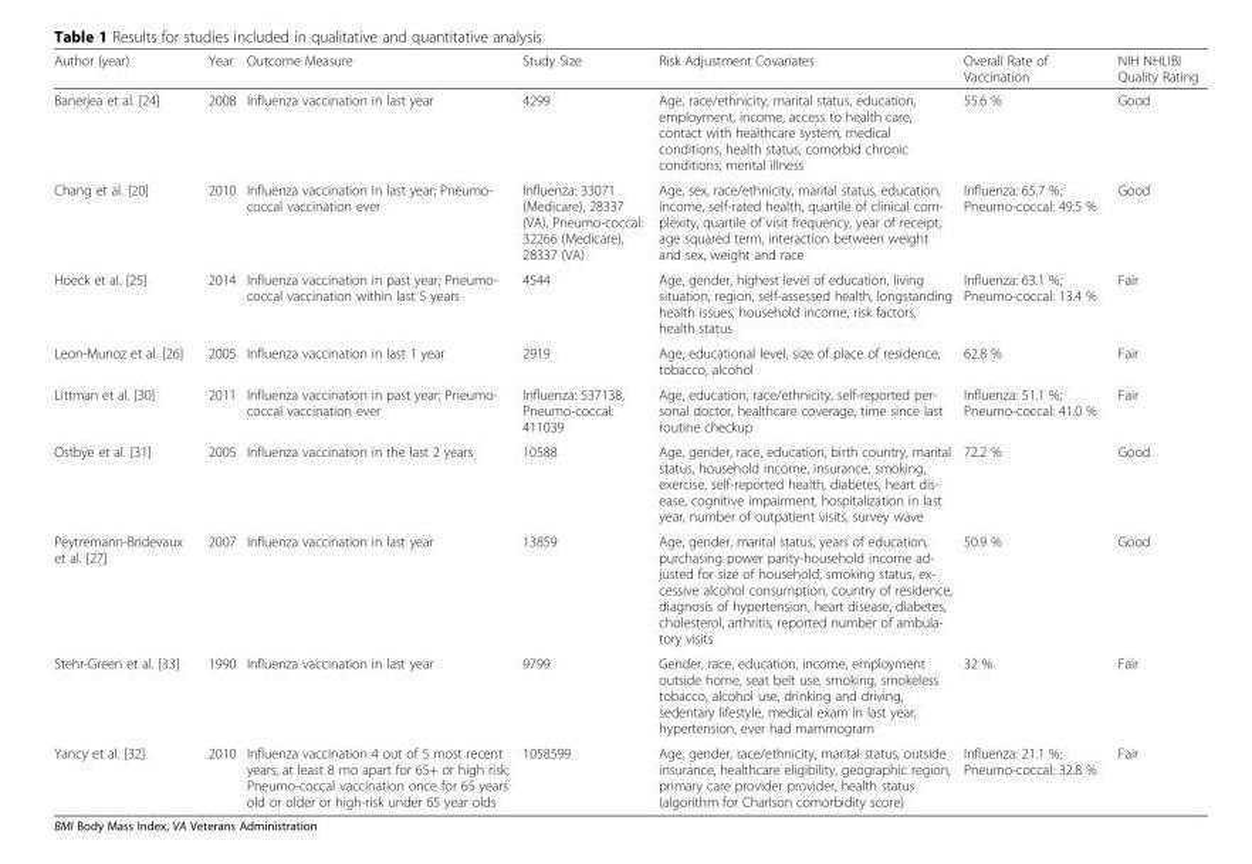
<table><thead><tr><td>Author (year)</td><td>Year</td><td>Outcome Measure</td><td>Study Size</td><td>Risk Adjustment Covariates</td><td>Overall Rate of Vaccination</td><td>NIH NHLIBI Quality Rating</td></tr></thead><tbody><tr><td>Banerjea et al. [24]</td><td>2008</td><td>Influenza vaccination in last year</td><td>4299</td><td>Age, race/ethnicity, marital status, education, employment, income, access to health care, contact with healthcare system, medical conditions, health status, comorbid chronic conditions, mental illness</td><td>55.6 %</td><td>Good</td></tr><tr><td>Chang et al. [20]</td><td>2010</td><td>Influenza vaccination in last year; Pneumo- coccal vaccination ever</td><td>Influenza: 33071 (Medicare), 28337 (VA), Pneumo-coccal: 32266 (Medicare), 28337 (VA)</td><td>Age, sex, race/ethnicity, marital status, education, income, self-rated health, quartile of clinical com- plexity, quartile of visit frequency, year of receipt, age squared term, interaction between weight and sex, weight and race</td><td>Influenza: 65.7 %; Pneumo-coccal: 49.5 %</td><td>Good</td></tr><tr><td>Hoeck et al. [25]</td><td>2014</td><td>Influenza vaccination in past year; Pneumo- coccal vaccination within last 5 years</td><td>4544</td><td>Age, gender, highest level of education, living situation, region, self-assessed health, longstanding health issues, household income, risk factors, health status</td><td>Influenza: 63.1 %; Pneumo-coccal: 13.4 %</td><td>Fair</td></tr><tr><td>Leon-Munoz et al. [26]</td><td>2005</td><td>Influenza vaccination in last 1 year</td><td>2919</td><td>Age, educational level, size of place of residence, tobacco, alcohol</td><td>62.8 %</td><td>Fair</td></tr><tr><td>Littman et al. [30]</td><td>2011</td><td>Influenza vaccination in past year; Pneumo- coccal vaccination ever</td><td>Influenza: 537138, Pneumo-coccal: 411039</td><td>Age, education, race/ethnicity, self-reported per- sonal doctor, healthcare coverage, time since last routine checkup</td><td>Influenza: 51.1 %; Pneumo-coccal: 41.0 %</td><td>Fair</td></tr><tr><td>Ostbye et al. [31]</td><td>2005</td><td>Influenza vaccination in the last 2 years</td><td>10588</td><td>Age, gender, race, education, birth country, marital status, household income, insurance, smoking, exercise, self-reported health, diabetes, heart dis- ease, cognitive impairment, hospitalization in last year, number of outpatient visits, survey wave</td><td>72.2 %</td><td>Good</td></tr><tr><td>Peytremann-Bridevaux et al. [27]</td><td>2007</td><td>Influenza vaccination in last year</td><td>13859</td><td>Age, gender, marital status, years of education, purchasing power parity-household income ad- justed for size of household, smoking status, ex- cessive alcohol consumption, country of residence, diagnosis of hypertension, heart disease, diabetes, cholesterol, arthritis, reported number of ambula- tory visits</td><td>50.9 %</td><td>Good</td></tr><tr><td>Stehr-Green et al. [33]</td><td>1990</td><td>Influenza vaccination in last year</td><td>9799</td><td>Gender, race, education, income, employment outside home, seat belt use, smoking, smokeless tobacco, alcohol use, drinking and driving, sedentary lifestyle, medical exam in last year, hypertension, ever had mammogram</td><td>32 %</td><td>Fair</td></tr><tr><td>Yancy et al. [32]</td><td>2010</td><td>Influenza vaccination 4 out of 5 most recent years, at least 8 mo apart for 65+ or high risk; Pneumo-coccal vaccination once for 65 years old or older or high-risk under 65 year olds</td><td>1058599</td><td>Age, gender, race/ethnicity, marital status, outside insurance, healthcare eligibility, geographic region, primary care provider provider, health status (algorithm for Charlson comorbidity score)</td><td>Influenza: 21.1 %; Pneumo-coccal: 32.8 %</td><td>Fair</td></tr></tbody></table>